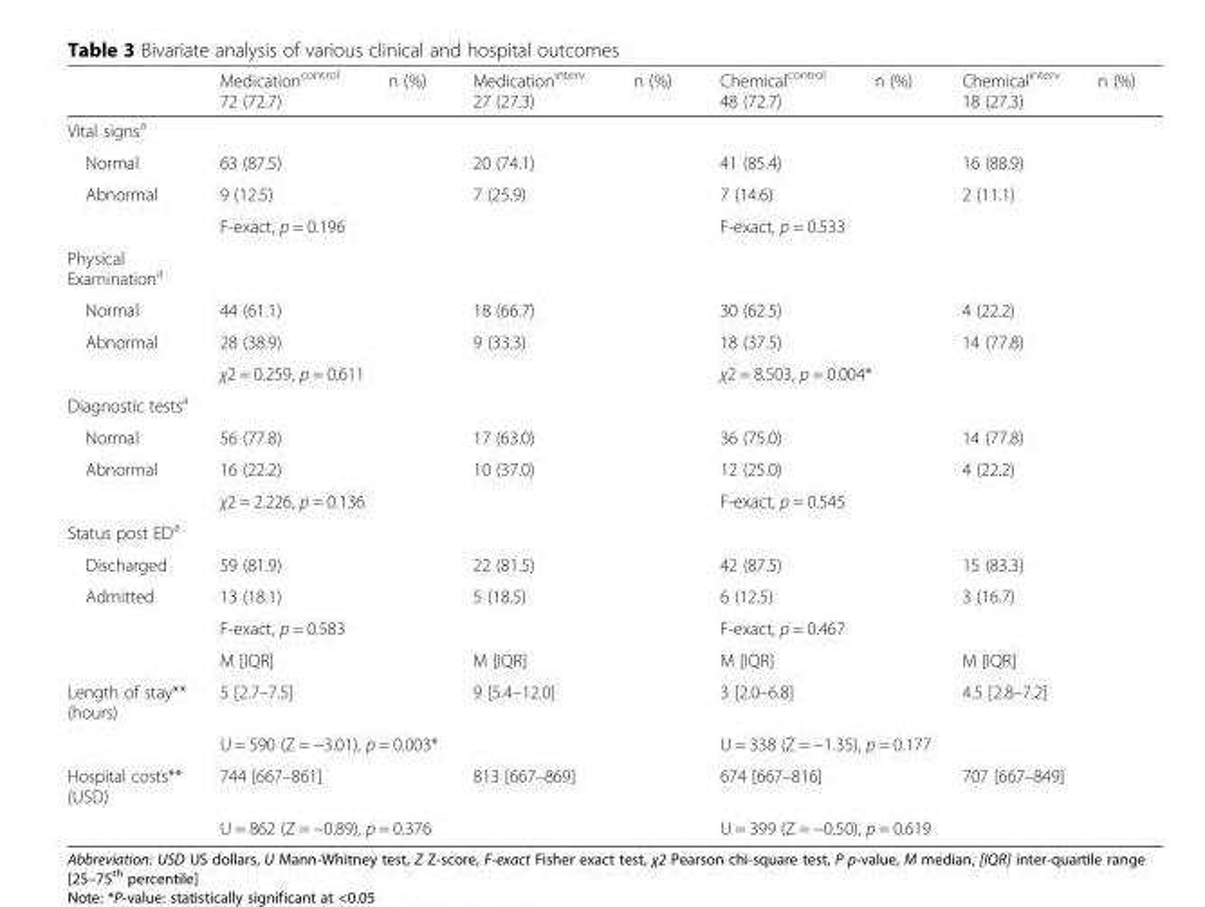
<table><thead><tr><td></td><td>Medication<sup>control</sup> n (%) 72 (72.7)</td><td>Medication<sup>interv</sup> n (%) 27 (27.3)</td><td>Chemical<sup>control</sup> n (%) 48 (72.7)</td><td>Chemical<sup>interv</sup> n (%) 18 (27.3)</td></tr></thead><tbody><tr><td colspan="5">Vital signs<sup>a</sup></td></tr><tr><td>Normal</td><td>63 (87.5)</td><td>20 (74.1)</td><td>41 (85.4)</td><td>16 (88.9)</td></tr><tr><td rowspan="2">Abnormal</td><td>9 (12.5)</td><td>7 (25.9)</td><td>7 (14.6)</td><td>2 (11.1)</td></tr><tr><td colspan="2">F-exact, p = 0.196</td><td colspan="2">F-exact, p = 0.533</td></tr><tr><td colspan="5">Physical Examination<sup>a</sup></td></tr><tr><td>Normal</td><td>44 (61.1)</td><td>18 (66.7)</td><td>30 (62.5)</td><td>4 (22.2)</td></tr><tr><td rowspan="2">Abnormal</td><td>28 (38.9)</td><td>9 (33.3)</td><td>18 (37.5)</td><td>14 (77.8)</td></tr><tr><td colspan="2">χ2 = 0.259, p = 0.611</td><td colspan="2">χ2 = 8.503, p = 0.004*</td></tr><tr><td colspan="5">Diagnostic tests<sup>a</sup></td></tr><tr><td>Normal</td><td>56 (77.8)</td><td>17 (63.0)</td><td>36 (75.0)</td><td>14 (77.8)</td></tr><tr><td rowspan="2">Abnormal</td><td>16 (22.2)</td><td>10 (37.0)</td><td>12 (25.0)</td><td>4 (22.2)</td></tr><tr><td colspan="2">χ2 = 2.226, p = 0.136</td><td colspan="2">F-exact, p = 0.545</td></tr><tr><td colspan="5">Status post ED<sup>a</sup></td></tr><tr><td>Discharged</td><td>59 (81.9)</td><td>22 (81.5)</td><td>42 (87.5)</td><td>15 (83.3)</td></tr><tr><td rowspan="3">Admitted</td><td>13 (18.1)</td><td>5 (18.5)</td><td>6 (12.5)</td><td>3 (16.7)</td></tr><tr><td colspan="2">F-exact, p = 0.583</td><td colspan="2">F-exact, p = 0.467</td></tr><tr><td>M [IQR]</td><td>M [IQR]</td><td>M [IQR]</td><td>M [IQR]</td></tr><tr><td rowspan="2">Length of stay** (hours)</td><td>5 [2.7–7.5]</td><td>9 [5.4–12.0]</td><td>3 [2.0–6.8]</td><td>4.5 [2.8–7.2]</td></tr><tr><td colspan="2">U = 590 (Z = −3.01), p = 0.003*</td><td colspan="2">U = 338 (Z = −1.35), p = 0.177</td></tr><tr><td rowspan="2">Hospital costs** (USD)</td><td>744 [667–861]</td><td>813 [667–869]</td><td>674 [667–816]</td><td>707 [667–849]</td></tr><tr><td colspan="2">U = 862 (Z = −0.89), p = 0.376</td><td colspan="2">U = 399 (Z = −0.50), p = 0.619</td></tr></tbody></table>